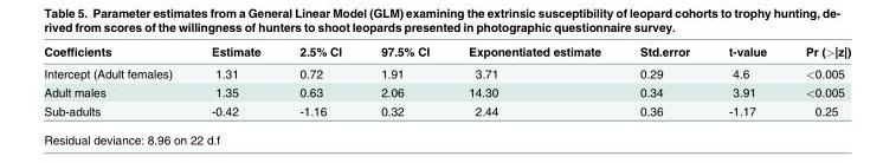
<table><thead><tr><td>Coefficients</td><td>Estimate</td><td>2.5% CI</td><td>97.5% CI</td><td>Exponentiated estimate</td><td>Std.error</td><td>t-value</td><td>Pr (&gt;|z|)</td></tr></thead><tbody><tr><td>Intercept (Adult females)</td><td>1.31</td><td>0.72</td><td>1.91</td><td>3.71</td><td>0.29</td><td>4.6</td><td>&lt;0.005</td></tr><tr><td>Adult males</td><td>1.35</td><td>0.63</td><td>2.06</td><td>14.30</td><td>0.34</td><td>3.91</td><td>&lt;0.005</td></tr><tr><td>Sub-adults</td><td>-0.42</td><td>-1.16</td><td>0.32</td><td>2.44</td><td>0.36</td><td>-1.17</td><td>0.25</td></tr></tbody></table>